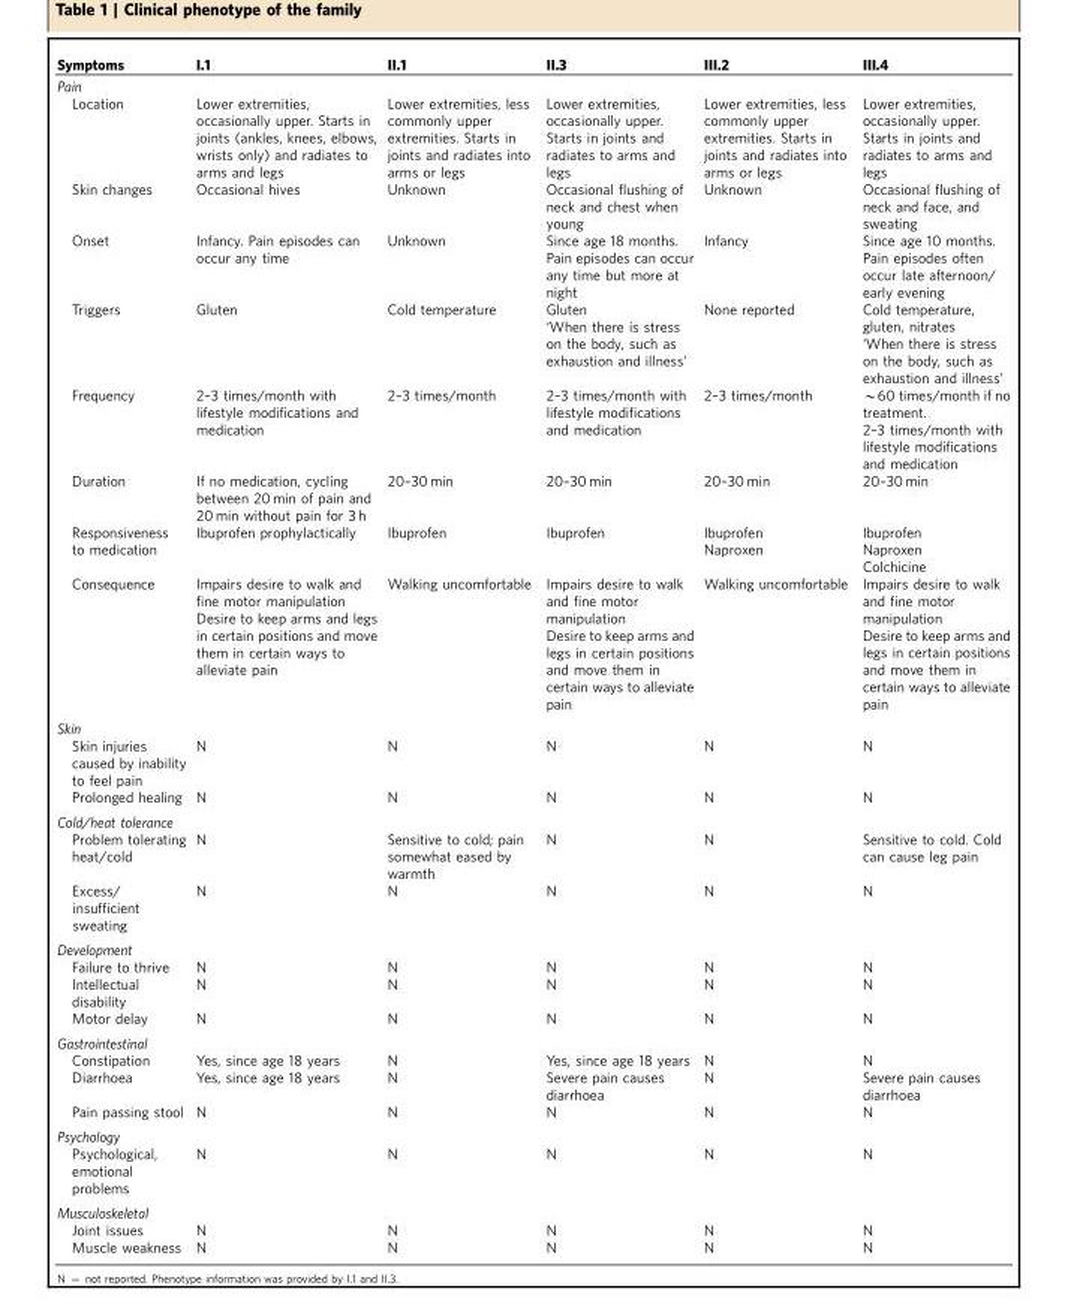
<table><thead><tr><td>Symptoms</td><td>I.1</td><td>II.1</td><td>II.3</td><td>III.2</td><td>III.4</td></tr></thead><tbody><tr><td colspan="6">Pain</td></tr><tr><td>Location Skin changes</td><td>Lower extremities, occasionally upper. Starts in joints (ankles, knees, elbows, wrists only) and radiates to arms and legs Occasional hives</td><td>Lower extremities, less commonly upper extremities. Starts in joints and radiates into arms or legs Unknown</td><td>Lower extremities, occasionally upper. Starts in joints and radiates to arms and legs Occasional flushing of neck and chest when young</td><td>Lower extremities, less commonly upper extremities. Starts in joints and radiates into arms or legs Unknown</td><td>Lower extremities, occasionally upper. Starts in joints and radiates to arms and legs Occasional flushing of neck and face, and sweating</td></tr><tr><td>Onset</td><td>Infancy. Pain episodes can occur any time</td><td>Unknown</td><td>Since age 18 months. Pain episodes can occur any time but more at night</td><td>Infancy</td><td>Since age 10 months. Pain episodes often occur late afternoon/ early evening</td></tr><tr><td>Triggers</td><td>Gluten</td><td>Cold temperature</td><td>Gluten ‘When there is stress on the body, such as exhaustion and illness’</td><td>None reported</td><td>Cold temperature, gluten, nitrates ‘When there is stress on the body, such as exhaustion and illness’</td></tr><tr><td>Frequency</td><td>2–3 times/month with lifestyle modifications and medication</td><td>2–3 times/month</td><td>2–3 times/month with lifestyle modifications and medication</td><td>2–3 times/month</td><td>∼60 times/month if no treatment. 2–3 times/month with lifestyle modifications and medication</td></tr><tr><td>Duration</td><td>If no medication, cycling between 20 min of pain and 20 min without pain for 3 h</td><td>20–30 min</td><td>20–30 min</td><td>20–30 min</td><td>20–30 min</td></tr><tr><td>Responsiveness to medication</td><td>Ibuprofen prophylactically</td><td>Ibuprofen</td><td>Ibuprofen</td><td>Ibuprofen Naproxen</td><td>Ibuprofen Naproxen Colchicine</td></tr><tr><td>Consequence</td><td>Impairs desire to walk and fine motor manipulation Desire to keep arms and legs in certain positions and move them in certain ways to alleviate pain</td><td>Walking uncomfortable</td><td>Impairs desire to walk and fine motor manipulation Desire to keep arms and legs in certain positions and move them in certain ways to alleviate pain</td><td>Walking uncomfortable</td><td>Impairs desire to walk and fine motor manipulation Desire to keep arms and legs in certain positions and move them in certain ways to alleviate pain</td></tr><tr><td colspan="6">Skin</td></tr><tr><td>Skin injuries caused by inability to feel pain</td><td>N</td><td>N</td><td>N</td><td>N</td><td>N</td></tr><tr><td>Prolonged healing</td><td>N</td><td>N</td><td>N</td><td>N</td><td>N</td></tr><tr><td colspan="6">Cold/heat tolerance</td></tr><tr><td>Problem tolerating heat/cold</td><td>N</td><td>Sensitive to cold; pain somewhat eased by warmth</td><td>N</td><td>N</td><td>Sensitive to cold. Cold can cause leg pain</td></tr><tr><td>Excess/ insufficient sweating</td><td>N</td><td>N</td><td>N</td><td>N</td><td>N</td></tr><tr><td colspan="6">Development</td></tr><tr><td>Failure to thrive</td><td>N</td><td>N</td><td>N</td><td>N</td><td>N</td></tr><tr><td>Intellectual disability</td><td>N</td><td>N</td><td>N</td><td>N</td><td>N</td></tr><tr><td>Motor delay</td><td>N</td><td>N</td><td>N</td><td>N</td><td>N</td></tr><tr><td colspan="6">Gastrointestinal</td></tr><tr><td>Constipation</td><td>Yes, since age 18 years</td><td>N</td><td>Yes, since age 18 years</td><td>N</td><td>N</td></tr><tr><td>Diarrhoea</td><td>Yes, since age 18 years</td><td>N</td><td>Severe pain causes diarrhoea</td><td>N</td><td>Severe pain causes diarrhoea</td></tr><tr><td>Pain passing stool</td><td>N</td><td>N</td><td>N</td><td>N</td><td>N</td></tr><tr><td colspan="6">Psychology</td></tr><tr><td>Psychological, emotional problems</td><td>N</td><td>N</td><td>N</td><td>N</td><td>N</td></tr><tr><td colspan="6">Musculoskeletal</td></tr><tr><td>Joint issues</td><td>N</td><td>N</td><td>N</td><td>N</td><td>N</td></tr><tr><td>Muscle weakness</td><td>N</td><td>N</td><td>N</td><td>N</td><td>N</td></tr></tbody></table>